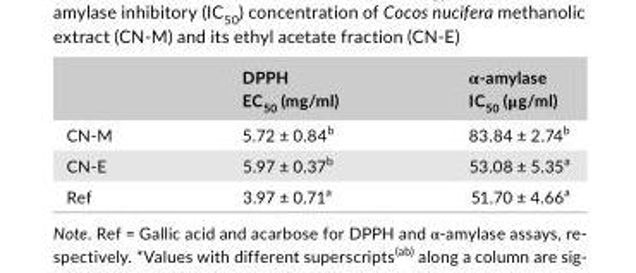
<table><thead><tr><td></td><td>DPPH EC<sub>50</sub> (mg/ml)</td><td>α- amylase IC<sub>50</sub> (μg/ml)</td></tr></thead><tbody><tr><td>CN- M</td><td>5.72 ± 0.84<sup>b</sup></td><td>83.84 ± 2.74<sup>b</sup></td></tr><tr><td>CN- E</td><td>5.97 ± 0.37<sup>b</sup></td><td>53.08 ± 5.35<sup>a</sup></td></tr><tr><td>Ref</td><td>3.97 ± 0.71<sup>a</sup></td><td>51.70 ± 4.66<sup>a</sup></td></tr></tbody></table>